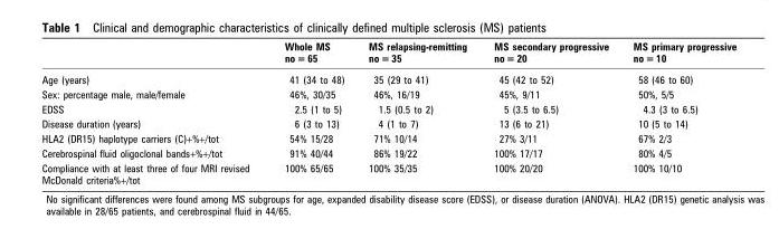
<table><thead><tr><td></td><td>Whole MS no = 65</td><td>MS relapsing-remitting no = 35</td><td>MS secondary progressive no = 20</td><td>MS primary progressive no = 10</td></tr></thead><tbody><tr><td>Age (years)</td><td>41 (34 to 48)</td><td>35 (29 to 41)</td><td>45 (42 to 52)</td><td>58 (46 to 60)</td></tr><tr><td>Sex: percentage male, male/female</td><td>46%, 30/35</td><td>46%, 16/19</td><td>45%, 9/11</td><td>50%, 5/5</td></tr><tr><td>EDSS</td><td>2.5 (1 to 5)</td><td>1.5 (0.5 to 2)</td><td>5 (3.5 to 6.5)</td><td>4.3 (3 to 6.5)</td></tr><tr><td>Disease duration (years)</td><td>6 (3 to 13)</td><td>4 (1 to 7)</td><td>13 (6 to 21)</td><td>10 (5 to 14)</td></tr><tr><td>HLA2 (DR15) haplotype carriers (C)+%+/tot</td><td>54% 15/28</td><td>71% 10/14</td><td>27% 3/11</td><td>67% 2/3</td></tr><tr><td>Cerebrospinal fluid oligoclonal bands+%+/tot</td><td>91% 40/44</td><td>86% 19/22</td><td>100% 17/17</td><td>80% 4/5</td></tr><tr><td>Compliance with at least three of four MRI revised McDonald criteria%+/tot</td><td>100% 65/65</td><td>100% 35/35</td><td>100% 20/20</td><td>100% 10/10</td></tr></tbody></table>